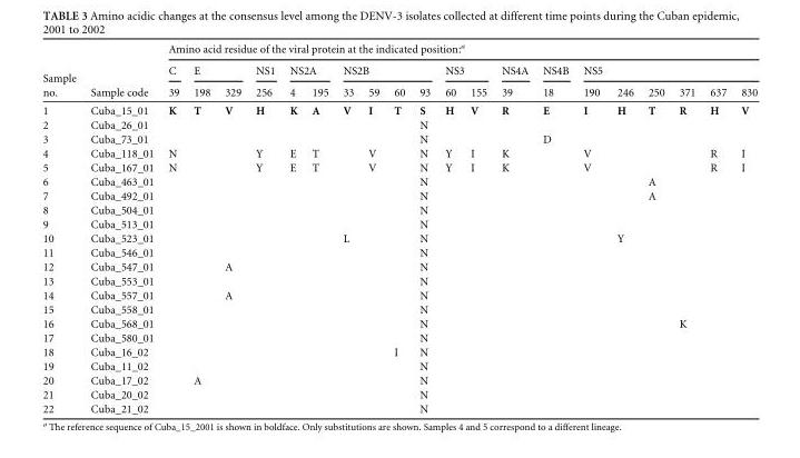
<table><thead><tr><td rowspan="3">Sample no.</td><td rowspan="3">Sample code</td><td colspan="20">Amino acid residue of the viral protein at the indicated position:<sup>a</sup></td></tr><tr><td rowspan="2">C 39</td><td colspan="2">E</td><td rowspan="2">NS1 256</td><td colspan="2">NS2A</td><td colspan="4">NS2B</td><td colspan="2">NS3</td><td rowspan="2">NS4A 39</td><td rowspan="2">NS4B 18</td><td colspan="6">NS5</td></tr><tr><td>198</td><td>329</td><td>4</td><td>195</td><td>33</td><td>59</td><td>60</td><td>93</td><td>60</td><td>155</td><td>190</td><td>246</td><td>250</td><td>371</td><td>637</td><td>830</td></tr></thead><tbody><tr><td>1</td><td>Cuba_15_01</td><td>K</td><td>T</td><td>V</td><td>H</td><td>K</td><td>A</td><td>V</td><td>I</td><td>T</td><td>S</td><td>H</td><td>V</td><td>R</td><td>E</td><td>I</td><td>H</td><td>T</td><td>R</td><td>H</td><td>V</td></tr><tr><td>2</td><td>Cuba_26_01</td><td></td><td></td><td></td><td></td><td></td><td></td><td></td><td></td><td></td><td>N</td><td></td><td></td><td></td><td></td><td></td><td></td><td></td><td></td><td></td><td></td></tr><tr><td>3</td><td>Cuba_73_01</td><td></td><td></td><td></td><td></td><td></td><td></td><td></td><td></td><td></td><td>N</td><td></td><td></td><td></td><td>D</td><td></td><td></td><td></td><td></td><td></td><td></td></tr><tr><td>4</td><td>Cuba_118_01</td><td>N</td><td></td><td></td><td>Y</td><td>E</td><td>T</td><td></td><td>V</td><td></td><td>N</td><td>Y</td><td>I</td><td>K</td><td></td><td>V</td><td></td><td></td><td></td><td>R</td><td>I</td></tr><tr><td>5</td><td>Cuba_167_01</td><td>N</td><td></td><td></td><td>Y</td><td>E</td><td>T</td><td></td><td>V</td><td></td><td>N</td><td>Y</td><td>I</td><td>K</td><td></td><td>V</td><td></td><td></td><td></td><td>R</td><td>I</td></tr><tr><td>6</td><td>Cuba_463_01</td><td></td><td></td><td></td><td></td><td></td><td></td><td></td><td></td><td></td><td>N</td><td></td><td></td><td></td><td></td><td></td><td></td><td>A</td><td></td><td></td><td></td></tr><tr><td>7</td><td>Cuba_492_01</td><td></td><td></td><td></td><td></td><td></td><td></td><td></td><td></td><td></td><td>N</td><td></td><td></td><td></td><td></td><td></td><td></td><td>A</td><td></td><td></td><td></td></tr><tr><td>8</td><td>Cuba_504_01</td><td></td><td></td><td></td><td></td><td></td><td></td><td></td><td></td><td></td><td>N</td><td></td><td></td><td></td><td></td><td></td><td></td><td></td><td></td><td></td><td></td></tr><tr><td>9</td><td>Cuba_513_01</td><td></td><td></td><td></td><td></td><td></td><td></td><td></td><td></td><td></td><td>N</td><td></td><td></td><td></td><td></td><td></td><td></td><td></td><td></td><td></td><td></td></tr><tr><td>10</td><td>Cuba_523_01</td><td></td><td></td><td></td><td></td><td></td><td></td><td>L</td><td></td><td></td><td>N</td><td></td><td></td><td></td><td></td><td></td><td>Y</td><td></td><td></td><td></td><td></td></tr><tr><td>11</td><td>Cuba_546_01</td><td></td><td></td><td></td><td></td><td></td><td></td><td></td><td></td><td></td><td>N</td><td></td><td></td><td></td><td></td><td></td><td></td><td></td><td></td><td></td><td></td></tr><tr><td>12</td><td>Cuba_547_01</td><td></td><td></td><td>A</td><td></td><td></td><td></td><td></td><td></td><td></td><td>N</td><td></td><td></td><td></td><td></td><td></td><td></td><td></td><td></td><td></td><td></td></tr><tr><td>13</td><td>Cuba_553_01</td><td></td><td></td><td></td><td></td><td></td><td></td><td></td><td></td><td></td><td>N</td><td></td><td></td><td></td><td></td><td></td><td></td><td></td><td></td><td></td><td></td></tr><tr><td>14</td><td>Cuba_557_01</td><td></td><td></td><td>A</td><td></td><td></td><td></td><td></td><td></td><td></td><td>N</td><td></td><td></td><td></td><td></td><td></td><td></td><td></td><td></td><td></td><td></td></tr><tr><td>15</td><td>Cuba_558_01</td><td></td><td></td><td></td><td></td><td></td><td></td><td></td><td></td><td></td><td>N</td><td></td><td></td><td></td><td></td><td></td><td></td><td></td><td></td><td></td><td></td></tr><tr><td>16</td><td>Cuba_568_01</td><td></td><td></td><td></td><td></td><td></td><td></td><td></td><td></td><td></td><td>N</td><td></td><td></td><td></td><td></td><td></td><td></td><td></td><td>K</td><td></td><td></td></tr><tr><td>17</td><td>Cuba_580_01</td><td></td><td></td><td></td><td></td><td></td><td></td><td></td><td></td><td></td><td>N</td><td></td><td></td><td></td><td></td><td></td><td></td><td></td><td></td><td></td><td></td></tr><tr><td>18</td><td>Cuba_16_02</td><td></td><td></td><td></td><td></td><td></td><td></td><td></td><td></td><td>I</td><td>N</td><td></td><td></td><td></td><td></td><td></td><td></td><td></td><td></td><td></td><td></td></tr><tr><td>19</td><td>Cuba_11_02</td><td></td><td></td><td></td><td></td><td></td><td></td><td></td><td></td><td></td><td>N</td><td></td><td></td><td></td><td></td><td></td><td></td><td></td><td></td><td></td><td></td></tr><tr><td>20</td><td>Cuba_17_02</td><td></td><td>A</td><td></td><td></td><td></td><td></td><td></td><td></td><td></td><td>N</td><td></td><td></td><td></td><td></td><td></td><td></td><td></td><td></td><td></td><td></td></tr><tr><td>21</td><td>Cuba_20_02</td><td></td><td></td><td></td><td></td><td></td><td></td><td></td><td></td><td></td><td>N</td><td></td><td></td><td></td><td></td><td></td><td></td><td></td><td></td><td></td><td></td></tr><tr><td>22</td><td>Cuba_21_02</td><td></td><td></td><td></td><td></td><td></td><td></td><td></td><td></td><td></td><td>N</td><td></td><td></td><td></td><td></td><td></td><td></td><td></td><td></td><td></td><td></td></tr></tbody></table>